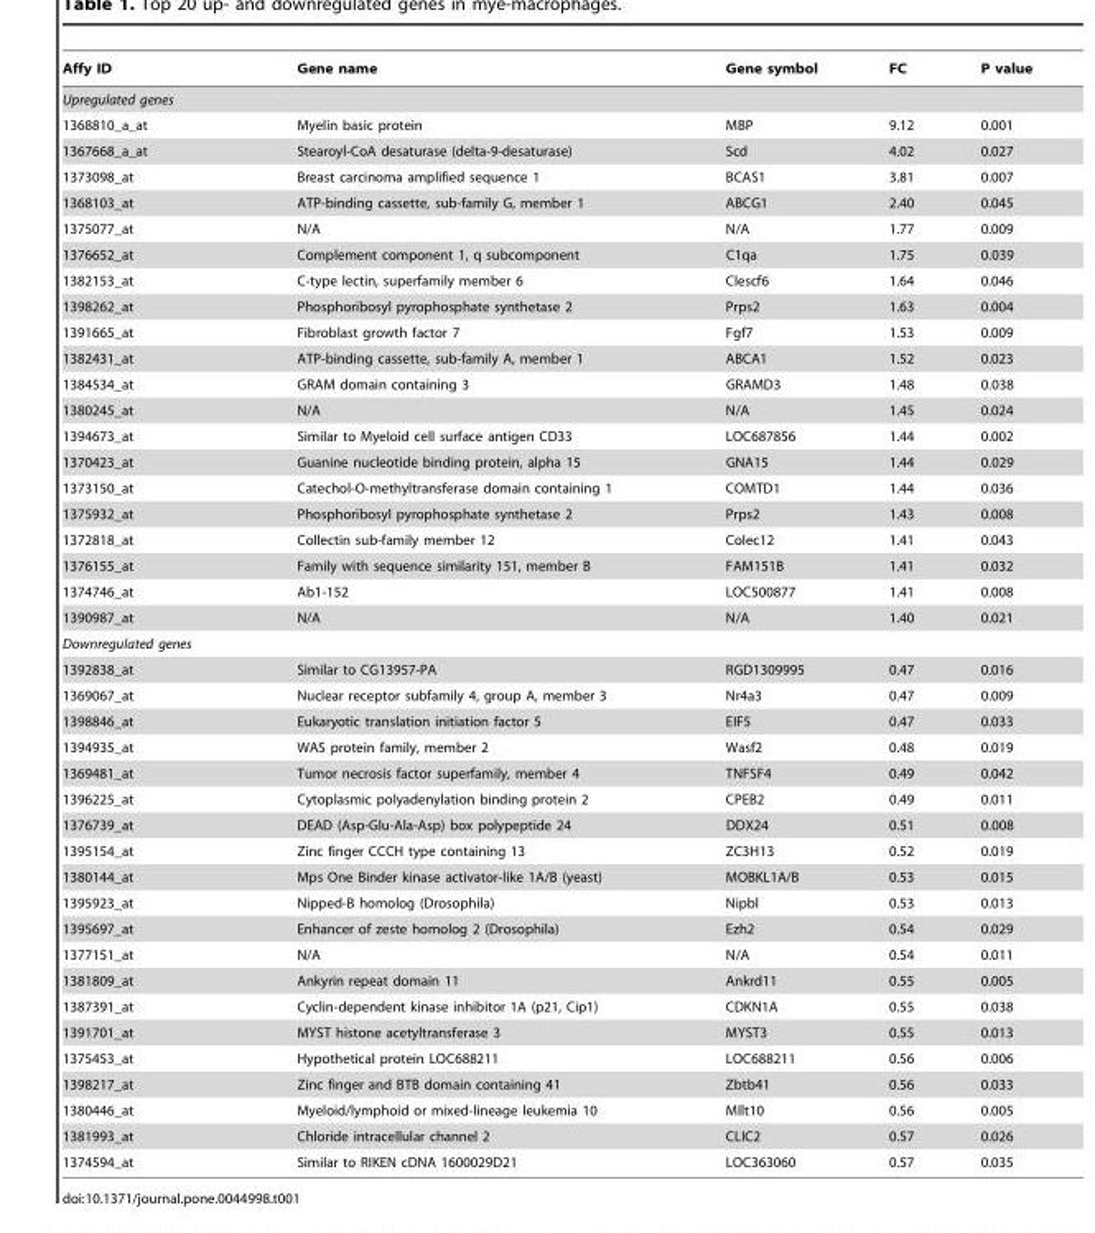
<table><thead><tr><td>Affy ID</td><td>Gene name</td><td>Gene symbol</td><td>FC</td><td>P value</td></tr></thead><tbody><tr><td colspan="5">Upregulated genes</td></tr><tr><td>1368810_a_at</td><td>Myelin basic protein</td><td>MBP</td><td>9.12</td><td>0.001</td></tr><tr><td>1367668_a_at</td><td>Stearoyl-CoA desaturase (delta-9-desaturase)</td><td>Scd</td><td>4.02</td><td>0.027</td></tr><tr><td>1373098_at</td><td>Breast carcinoma amplified sequence 1</td><td>BCAS1</td><td>3.81</td><td>0.007</td></tr><tr><td>1368103_at</td><td>ATP-binding cassette, sub-family G, member 1</td><td>ABCG1</td><td>2.40</td><td>0.045</td></tr><tr><td>1375077_at</td><td>N/A</td><td>N/A</td><td>1.77</td><td>0.009</td></tr><tr><td>1376652_at</td><td>Complement component 1, q subcomponent</td><td>C1qa</td><td>1.75</td><td>0.039</td></tr><tr><td>1382153_at</td><td>C-type lectin, superfamily member 6</td><td>Clescf6</td><td>1.64</td><td>0.046</td></tr><tr><td>1398262_at</td><td>Phosphoribosyl pyrophosphate synthetase 2</td><td>Prps2</td><td>1.63</td><td>0.004</td></tr><tr><td>1391665_at</td><td>Fibroblast growth factor 7</td><td>Fgf7</td><td>1.53</td><td>0.009</td></tr><tr><td>1382431_at</td><td>ATP-binding cassette, sub-family A, member 1</td><td>ABCA1</td><td>1.52</td><td>0.023</td></tr><tr><td>1384534_at</td><td>GRAM domain containing 3</td><td>GRAMD3</td><td>1.48</td><td>0.038</td></tr><tr><td>1380245_at</td><td>N/A</td><td>N/A</td><td>1.45</td><td>0.024</td></tr><tr><td>1394673_at</td><td>Similar to Myeloid cell surface antigen CD33</td><td>LOC687856</td><td>1.44</td><td>0.002</td></tr><tr><td>1370423_at</td><td>Guanine nucleotide binding protein, alpha 15</td><td>GNA15</td><td>1.44</td><td>0.029</td></tr><tr><td>1373150_at</td><td>Catechol-O-methyltransferase domain containing 1</td><td>COMTD1</td><td>1.44</td><td>0.036</td></tr><tr><td>1375932_at</td><td>Phosphoribosyl pyrophosphate synthetase 2</td><td>Prps2</td><td>1.43</td><td>0.008</td></tr><tr><td>1372818_at</td><td>Collectin sub-family member 12</td><td>Colec12</td><td>1.41</td><td>0.043</td></tr><tr><td>1376155_at</td><td>Family with sequence similarity 151, member B</td><td>FAM151B</td><td>1.41</td><td>0.032</td></tr><tr><td>1374746_at</td><td>Ab1-152</td><td>LOC500877</td><td>1.41</td><td>0.008</td></tr><tr><td>1390987_at</td><td>N/A</td><td>N/A</td><td>1.40</td><td>0.021</td></tr><tr><td colspan="5">Downregulated genes</td></tr><tr><td>1392838_at</td><td>Similar to CG13957-PA</td><td>RGD1309995</td><td>0.47</td><td>0.016</td></tr><tr><td>1369067_at</td><td>Nuclear receptor subfamily 4, group A, member 3</td><td>Nr4a3</td><td>0.47</td><td>0.009</td></tr><tr><td>1398846_at</td><td>Eukaryotic translation initiation factor 5</td><td>EIF5</td><td>0.47</td><td>0.033</td></tr><tr><td>1394935_at</td><td>WAS protein family, member 2</td><td>Wasf2</td><td>0.48</td><td>0.019</td></tr><tr><td>1369481_at</td><td>Tumor necrosis factor superfamily, member 4</td><td>TNFSF4</td><td>0.49</td><td>0.042</td></tr><tr><td>1396225_at</td><td>Cytoplasmic polyadenylation binding protein 2</td><td>CPEB2</td><td>0.49</td><td>0.011</td></tr><tr><td>1376739_at</td><td>DEAD (Asp-Glu-Ala-Asp) box polypeptide 24</td><td>DDX24</td><td>0.51</td><td>0.008</td></tr><tr><td>1395154_at</td><td>Zinc finger CCCH type containing 13</td><td>ZC3H13</td><td>0.52</td><td>0.019</td></tr><tr><td>1380144_at</td><td>Mps One Binder kinase activator-like 1A/B (yeast)</td><td>MOBKL1A/B</td><td>0.53</td><td>0.015</td></tr><tr><td>1395923_at</td><td>Nipped-B homolog (Drosophila)</td><td>Nipbl</td><td>0.53</td><td>0.013</td></tr><tr><td>1395697_at</td><td>Enhancer of zeste homolog 2 (Drosophila)</td><td>Ezh2</td><td>0.54</td><td>0.029</td></tr><tr><td>1377151_at</td><td>N/A</td><td>N/A</td><td>0.54</td><td>0.011</td></tr><tr><td>1381809_at</td><td>Ankyrin repeat domain 11</td><td>Ankrd11</td><td>0.55</td><td>0.005</td></tr><tr><td>1387391_at</td><td>Cyclin-dependent kinase inhibitor 1A (p21, Cip1)</td><td>CDKN1A</td><td>0.55</td><td>0.038</td></tr><tr><td>1391701_at</td><td>MYST histone acetyltransferase 3</td><td>MYST3</td><td>0.55</td><td>0.013</td></tr><tr><td>1375453_at</td><td>Hypothetical protein LOC688211</td><td>LOC688211</td><td>0.56</td><td>0.006</td></tr><tr><td>1398217_at</td><td>Zinc finger and BTB domain containing 41</td><td>Zbtb41</td><td>0.56</td><td>0.033</td></tr><tr><td>1380446_at</td><td>Myeloid/lymphoid or mixed-lineage leukemia 10</td><td>Mllt10</td><td>0.56</td><td>0.005</td></tr><tr><td>1381993_at</td><td>Chloride intracellular channel 2</td><td>CLIC2</td><td>0.57</td><td>0.026</td></tr><tr><td>1374594_at</td><td>Similar to RIKEN cDNA 1600029D21</td><td>LOC363060</td><td>0.57</td><td>0.035</td></tr></tbody></table>